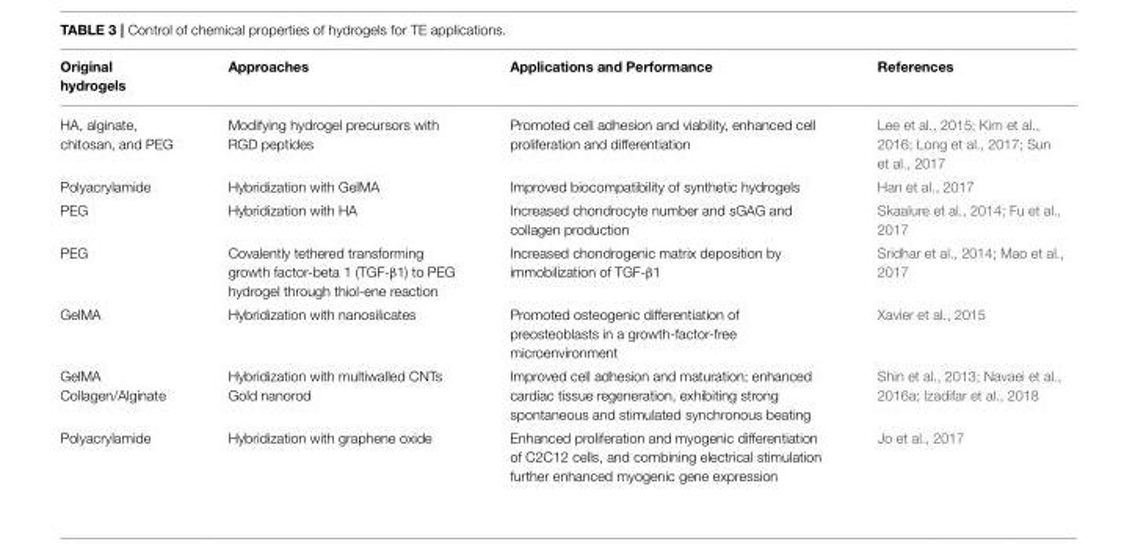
<table><thead><tr><td>Original hydrogels</td><td>Approaches</td><td>Applications and Performance</td><td>References</td></tr></thead><tbody><tr><td>HA, alginate, chitosan, and PEG</td><td>Modifying hydrogel precursors with RGD peptides</td><td>Promoted cell adhesion and viability, enhanced cell proliferation and differentiation</td><td>Lee et al., 2015; Kim et al., 2016; Long et al., 2017; Sun et al., 2017</td></tr><tr><td>Polyacrylamide</td><td>Hybridization with GelMA</td><td>Improved biocompatibility of synthetic hydrogels</td><td>Han et al., 2017</td></tr><tr><td>PEG</td><td>Hybridization with HA</td><td>Increased chondrocyte number and sGAG and collagen production</td><td>Skaalure et al., 2014; Fu et al., 2017</td></tr><tr><td>PEG</td><td>Covalently tethered transforming growth factor-beta 1 (TGF-β1) to PEG hydrogel through thiol-ene reaction</td><td>Increased chondrogenic matrix deposition by immobilization of TGF-β1</td><td>Sridhar et al., 2014; Mao et al., 2017</td></tr><tr><td>GelMA</td><td>Hybridization with nanosilicates</td><td>Promoted osteogenic differentiation of preosteoblasts in a growth-factor-free microenvironment</td><td>Xavier et al., 2015</td></tr><tr><td>GelMA Collagen/Alginate</td><td>Hybridization with multiwalled CNTs Gold nanorod</td><td>Improved cell adhesion and maturation; enhanced cardiac tissue regeneration, exhibiting strong spontaneous and stimulated synchronous beating</td><td>Shin et al., 2013; Navaei et al., 2016a; Izadifar et al., 2018</td></tr><tr><td>Polyacrylamide</td><td>Hybridization with graphene oxide</td><td>Enhanced proliferation and myogenic differentiation of C2C12 cells, and combining electrical stimulation further enhanced myogenic gene expression</td><td>Jo et al., 2017</td></tr></tbody></table>